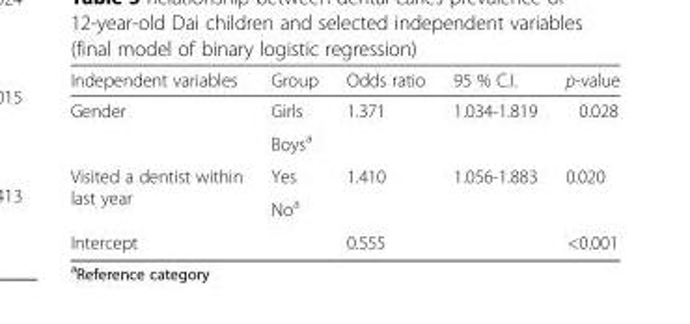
<table><thead><tr><td>Independent variables</td><td>Group</td><td>Odds ratio</td><td>95 % C.I.</td><td>p-value</td></tr></thead><tbody><tr><td rowspan="2">Gender</td><td>Girls</td><td>1.371</td><td>1.034-1.819</td><td>0.028</td></tr><tr><td>Boys<sup>a</sup></td><td></td><td></td><td></td></tr><tr><td rowspan="2">Visited a dentist within last year</td><td>Yes</td><td rowspan="2">1.410</td><td rowspan="2">1.056-1.883</td><td rowspan="2">0.020</td></tr><tr><td>No<sup>a</sup></td></tr><tr><td>Intercept</td><td></td><td>0.555</td><td></td><td>&lt;0.001</td></tr></tbody></table>